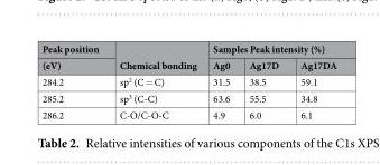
<table><thead><tr><td rowspan="2">Peak position (eV)</td><td rowspan="2">Chemical bonding</td><td colspan="3">Samples Peak intensity (%)</td></tr><tr><td>Ag0</td><td>Ag17D</td><td>Ag17DA</td></tr></thead><tbody><tr><td>284.2</td><td>sp<sup>2</sup> (C = C)</td><td>31.5</td><td>38.5</td><td>59.1</td></tr><tr><td>285.2</td><td>sp<sup>3</sup> (C-C)</td><td>63.6</td><td>55.5</td><td>34.8</td></tr><tr><td>286.2</td><td>C-O/C-O-C</td><td>4.9</td><td>6.0</td><td>6.1</td></tr></tbody></table>